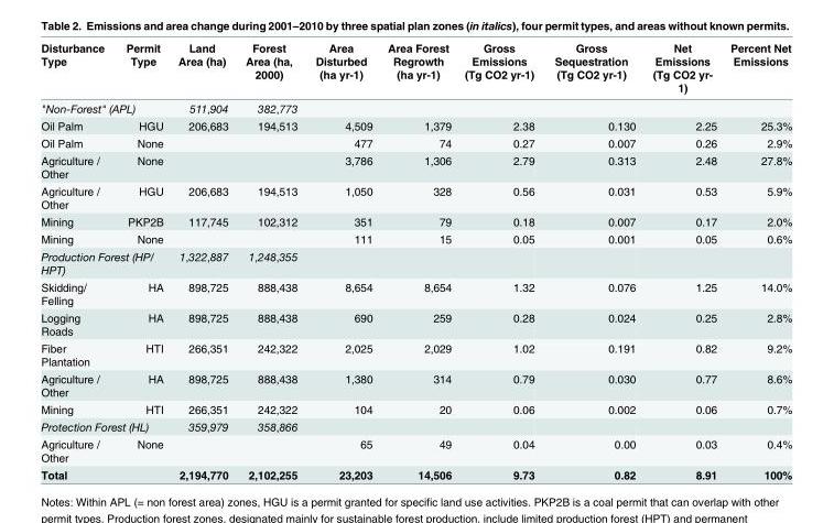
<table><thead><tr><td>Disturbance Type</td><td>Permit Type</td><td>Land Area (ha)</td><td>Forest Area (ha, 2000)</td><td>Area Disturbed (ha yr-1)</td><td>Area Forest Regrowth (ha yr-1)</td><td>Gross Emissions (Tg CO2 yr-1)</td><td>Gross Sequestration (Tg CO2 yr-1)</td><td>Net Emissions (Tg CO2 yr- 1)</td><td>Percent Net Emissions</td></tr></thead><tbody><tr><td colspan="2">&quot;Non-Forest&quot; (APL)</td><td>511,904</td><td>382,773</td><td></td><td></td><td></td><td></td><td></td><td></td></tr><tr><td>Oil Palm</td><td>HGU</td><td>206,683</td><td>194,513</td><td>4,509</td><td>1,379</td><td>2.38</td><td>0.130</td><td>2.25</td><td>25.3%</td></tr><tr><td>Oil Palm</td><td>None</td><td></td><td></td><td>477</td><td>74</td><td>0.27</td><td>0.007</td><td>0.26</td><td>2.9%</td></tr><tr><td>Agriculture / Other</td><td>None</td><td></td><td></td><td>3,786</td><td>1,306</td><td>2.79</td><td>0.313</td><td>2.48</td><td>27.8%</td></tr><tr><td>Agriculture / Other</td><td>HGU</td><td>206,683</td><td>194,513</td><td>1,050</td><td>328</td><td>0.56</td><td>0.031</td><td>0.53</td><td>5.9%</td></tr><tr><td>Mining</td><td>PKP2B</td><td>117,745</td><td>102,312</td><td>351</td><td>79</td><td>0.18</td><td>0.007</td><td>0.17</td><td>2.0%</td></tr><tr><td>Mining</td><td>None</td><td></td><td></td><td>111</td><td>15</td><td>0.05</td><td>0.001</td><td>0.05</td><td>0.6%</td></tr><tr><td colspan="2">Production Forest (HP/ HPT)</td><td>1,322,887</td><td>1,248,355</td><td></td><td></td><td></td><td></td><td></td><td></td></tr><tr><td>Skidding/ Felling</td><td>HA</td><td>898,725</td><td>888,438</td><td>8,654</td><td>8,654</td><td>1.32</td><td>0.076</td><td>1.25</td><td>14.0%</td></tr><tr><td>Logging Roads</td><td>HA</td><td>898,725</td><td>888,438</td><td>690</td><td>259</td><td>0.28</td><td>0.024</td><td>0.25</td><td>2.8%</td></tr><tr><td>Fiber Plantation</td><td>HTI</td><td>266,351</td><td>242,322</td><td>2,025</td><td>2,029</td><td>1.02</td><td>0.191</td><td>0.82</td><td>9.2%</td></tr><tr><td>Agriculture / Other</td><td>HA</td><td>898,725</td><td>888,438</td><td>1,380</td><td>314</td><td>0.79</td><td>0.030</td><td>0.77</td><td>8.6%</td></tr><tr><td>Mining</td><td>HTI</td><td>266,351</td><td>242,322</td><td>104</td><td>20</td><td>0.06</td><td>0.002</td><td>0.06</td><td>0.7%</td></tr><tr><td colspan="2">Protection Forest (HL)</td><td>359,979</td><td>358,866</td><td></td><td></td><td></td><td></td><td></td><td></td></tr><tr><td>Agriculture / Other</td><td>None</td><td></td><td></td><td>65</td><td>49</td><td>0.04</td><td>0.00</td><td>0.03</td><td>0.4%</td></tr><tr><td>Total</td><td></td><td>2,194,770</td><td>2,102,255</td><td>23,203</td><td>14,506</td><td>9.73</td><td>0.82</td><td>8.91</td><td>100%</td></tr></tbody></table>